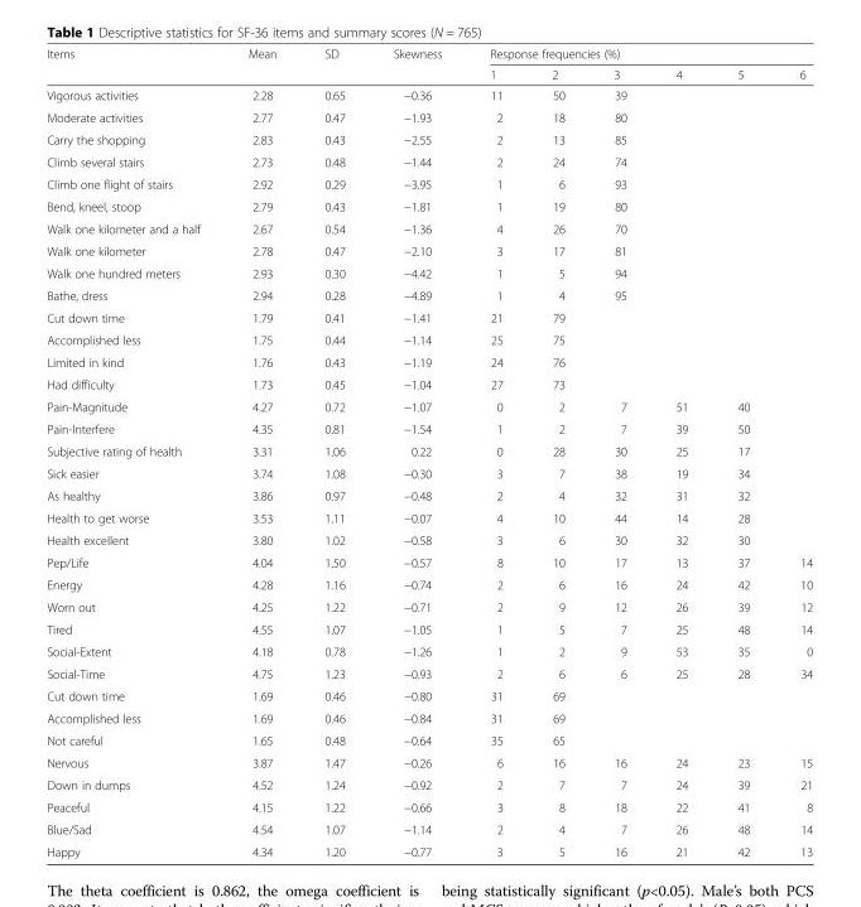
<table><thead><tr><td rowspan="2">Items</td><td rowspan="2">Mean</td><td rowspan="2">SD</td><td rowspan="2">Skewness</td><td colspan="6">Response frequencies (%)</td></tr><tr><td>1</td><td>2</td><td>3</td><td>4</td><td>5</td><td>6</td></tr></thead><tbody><tr><td>Vigorous activities</td><td>2.28</td><td>0.65</td><td>−0.36</td><td>11</td><td>50</td><td>39</td><td></td><td></td><td></td></tr><tr><td>Moderate activities</td><td>2.77</td><td>0.47</td><td>−1.93</td><td>2</td><td>18</td><td>80</td><td></td><td></td><td></td></tr><tr><td>Carry the shopping</td><td>2.83</td><td>0.43</td><td>−2.55</td><td>2</td><td>13</td><td>85</td><td></td><td></td><td></td></tr><tr><td>Climb several stairs</td><td>2.73</td><td>0.48</td><td>−1.44</td><td>2</td><td>24</td><td>74</td><td></td><td></td><td></td></tr><tr><td>Climb one flight of stairs</td><td>2.92</td><td>0.29</td><td>−3.95</td><td>1</td><td>6</td><td>93</td><td></td><td></td><td></td></tr><tr><td>Bend, kneel, stoop</td><td>2.79</td><td>0.43</td><td>−1.81</td><td>1</td><td>19</td><td>80</td><td></td><td></td><td></td></tr><tr><td>Walk one kilometer and a half</td><td>2.67</td><td>0.54</td><td>−1.36</td><td>4</td><td>26</td><td>70</td><td></td><td></td><td></td></tr><tr><td>Walk one kilometer</td><td>2.78</td><td>0.47</td><td>−2.10</td><td>3</td><td>17</td><td>81</td><td></td><td></td><td></td></tr><tr><td>Walk one hundred meters</td><td>2.93</td><td>0.30</td><td>−4.42</td><td>1</td><td>5</td><td>94</td><td></td><td></td><td></td></tr><tr><td>Bathe, dress</td><td>2.94</td><td>0.28</td><td>−4.89</td><td>1</td><td>4</td><td>95</td><td></td><td></td><td></td></tr><tr><td>Cut down time</td><td>1.79</td><td>0.41</td><td>−1.41</td><td>21</td><td>79</td><td></td><td></td><td></td><td></td></tr><tr><td>Accomplished less</td><td>1.75</td><td>0.44</td><td>−1.14</td><td>25</td><td>75</td><td></td><td></td><td></td><td></td></tr><tr><td>Limited in kind</td><td>1.76</td><td>0.43</td><td>−1.19</td><td>24</td><td>76</td><td></td><td></td><td></td><td></td></tr><tr><td>Had difficulty</td><td>1.73</td><td>0.45</td><td>−1.04</td><td>27</td><td>73</td><td></td><td></td><td></td><td></td></tr><tr><td>Pain-Magnitude</td><td>4.27</td><td>0.72</td><td>−1.07</td><td>0</td><td>2</td><td>7</td><td>51</td><td>40</td><td></td></tr><tr><td>Pain-Interfere</td><td>4.35</td><td>0.81</td><td>−1.54</td><td>1</td><td>2</td><td>7</td><td>39</td><td>50</td><td></td></tr><tr><td>Subjective rating of health</td><td>3.31</td><td>1.06</td><td>0.22</td><td>0</td><td>28</td><td>30</td><td>25</td><td>17</td><td></td></tr><tr><td>Sick easier</td><td>3.74</td><td>1.08</td><td>−0.30</td><td>3</td><td>7</td><td>38</td><td>19</td><td>34</td><td></td></tr><tr><td>As healthy</td><td>3.86</td><td>0.97</td><td>−0.48</td><td>2</td><td>4</td><td>32</td><td>31</td><td>32</td><td></td></tr><tr><td>Health to get worse</td><td>3.53</td><td>1.11</td><td>−0.07</td><td>4</td><td>10</td><td>44</td><td>14</td><td>28</td><td></td></tr><tr><td>Health excellent</td><td>3.80</td><td>1.02</td><td>−0.58</td><td>3</td><td>6</td><td>30</td><td>32</td><td>30</td><td></td></tr><tr><td>Pep/Life</td><td>4.04</td><td>1.50</td><td>−0.57</td><td>8</td><td>10</td><td>17</td><td>13</td><td>37</td><td>14</td></tr><tr><td>Energy</td><td>4.28</td><td>1.16</td><td>−0.74</td><td>2</td><td>6</td><td>16</td><td>24</td><td>42</td><td>10</td></tr><tr><td>Worn out</td><td>4.25</td><td>1.22</td><td>−0.71</td><td>2</td><td>9</td><td>12</td><td>26</td><td>39</td><td>12</td></tr><tr><td>Tired</td><td>4.55</td><td>1.07</td><td>−1.05</td><td>1</td><td>5</td><td>7</td><td>25</td><td>48</td><td>14</td></tr><tr><td>Social-Extent</td><td>4.18</td><td>0.78</td><td>−1.26</td><td>1</td><td>2</td><td>9</td><td>53</td><td>35</td><td>0</td></tr><tr><td>Social-Time</td><td>4.75</td><td>1.23</td><td>−0.93</td><td>2</td><td>6</td><td>6</td><td>25</td><td>28</td><td>34</td></tr><tr><td>Cut down time</td><td>1.69</td><td>0.46</td><td>−0.80</td><td>31</td><td>69</td><td></td><td></td><td></td><td></td></tr><tr><td>Accomplished less</td><td>1.69</td><td>0.46</td><td>−0.84</td><td>31</td><td>69</td><td></td><td></td><td></td><td></td></tr><tr><td>Not careful</td><td>1.65</td><td>0.48</td><td>−0.64</td><td>35</td><td>65</td><td></td><td></td><td></td><td></td></tr><tr><td>Nervous</td><td>3.87</td><td>1.47</td><td>−0.26</td><td>6</td><td>16</td><td>16</td><td>24</td><td>23</td><td>15</td></tr><tr><td>Down in dumps</td><td>4.52</td><td>1.24</td><td>−0.92</td><td>2</td><td>7</td><td>7</td><td>24</td><td>39</td><td>21</td></tr><tr><td>Peaceful</td><td>4.15</td><td>1.22</td><td>−0.66</td><td>3</td><td>8</td><td>18</td><td>22</td><td>41</td><td>8</td></tr><tr><td>Blue/Sad</td><td>4.54</td><td>1.07</td><td>−1.14</td><td>2</td><td>4</td><td>7</td><td>26</td><td>48</td><td>14</td></tr><tr><td>Happy</td><td>4.34</td><td>1.20</td><td>−0.77</td><td>3</td><td>5</td><td>16</td><td>21</td><td>42</td><td>13</td></tr></tbody></table>